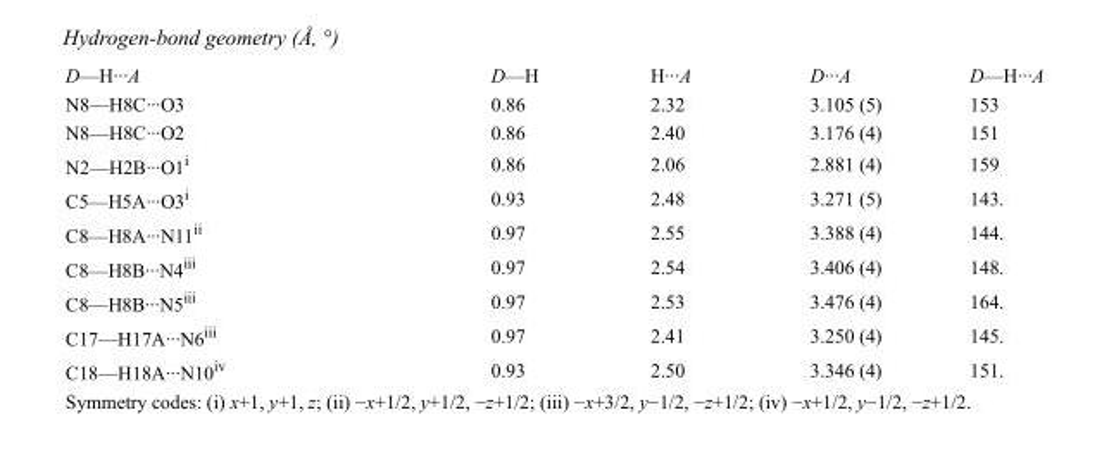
<table><tbody><tr><td>D—H···A</td><td>D—H</td><td>H···A</td><td>D···A</td><td>D—H···A</td></tr><tr><td>N8—H8C···O3</td><td>0.86</td><td>2.32</td><td>3.105 (5)</td><td>153</td></tr><tr><td>N8—H8C···O2</td><td>0.86</td><td>2.40</td><td>3.176 (4)</td><td>151</td></tr><tr><td>N2—H2B···O1<sup>i</sup></td><td>0.86</td><td>2.06</td><td>2.881 (4)</td><td>159</td></tr><tr><td>C5—H5A···O3<sup>i</sup></td><td>0.93</td><td>2.48</td><td>3.271 (5)</td><td>143.</td></tr><tr><td>C8—H8A···N11<sup>ii</sup></td><td>0.97</td><td>2.55</td><td>3.388 (4)</td><td>144.</td></tr><tr><td>C8—H8B···N4<sup>iii</sup></td><td>0.97</td><td>2.54</td><td>3.406 (4)</td><td>148.</td></tr><tr><td>C8—H8B···N5<sup>iii</sup></td><td>0.97</td><td>2.53</td><td>3.476 (4)</td><td>164.</td></tr><tr><td>C17—H17A···N6<sup>iii</sup></td><td>0.97</td><td>2.41</td><td>3.250 (4)</td><td>145.</td></tr><tr><td>C18—H18A···N10<sup>iv</sup></td><td>0.93</td><td>2.50</td><td>3.346 (4)</td><td>151.</td></tr></tbody></table>